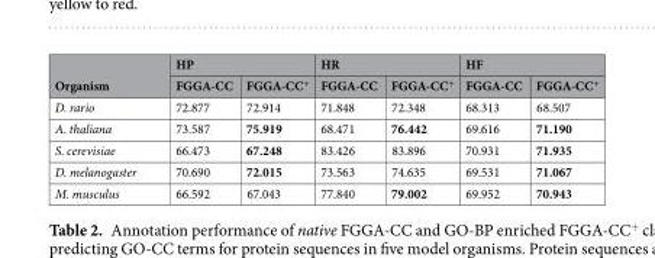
<table><thead><tr><td rowspan="2">Organism</td><td colspan="2">HP</td><td colspan="2">HR</td><td colspan="2">HF</td></tr><tr><td>FGGA-CC</td><td>FGGA-CC<sup>+</sup></td><td>FGGA-CC</td><td>FGGA-CC<sup>+</sup></td><td>FGGA-CC</td><td>FGGA-CC<sup>+</sup></td></tr></thead><tbody><tr><td>D. rario</td><td>72.877</td><td>72.914</td><td>71.848</td><td>72.348</td><td>68.313</td><td>68.507</td></tr><tr><td>A. thaliana</td><td>73.587</td><td>75.919</td><td>68.471</td><td>76.442</td><td>69.616</td><td>71.190</td></tr><tr><td>S. cerevisiae</td><td>66.473</td><td>67.248</td><td>83.426</td><td>83.896</td><td>70.931</td><td>71.935</td></tr><tr><td>D. melanogaster</td><td>70.690</td><td>72.015</td><td>73.563</td><td>74.635</td><td>69.531</td><td>71.067</td></tr><tr><td>M. musculus</td><td>66.592</td><td>67.043</td><td>77.840</td><td>79.002</td><td>69.952</td><td>70.943</td></tr></tbody></table>